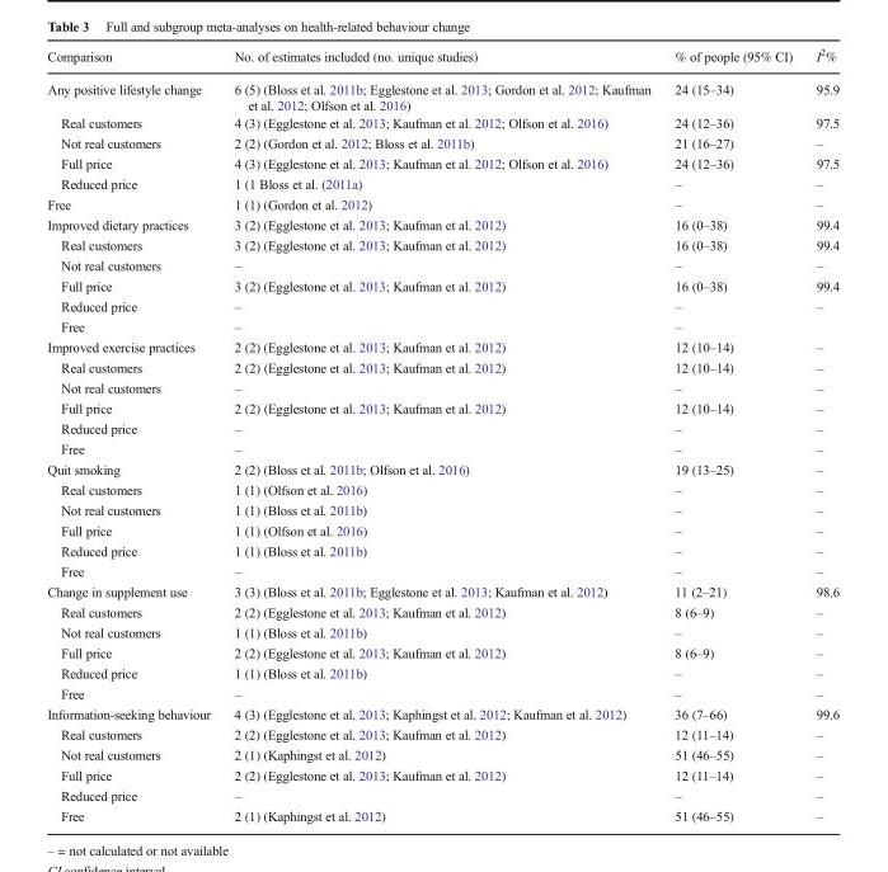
<table><thead><tr><td>Comparison</td><td>No. of estimates included (no. unique studies)</td><td>% of people (95% CI)</td><td>I<sup>2</sup>%</td></tr></thead><tbody><tr><td>Any positive lifestyle change</td><td>6 (5) (Bloss et al. 2011b; Egglestone et al. 2013; Gordon et al. 2012; Kaufman et al. 2012; Olfson et al. 2016)</td><td>24 (15–34)</td><td>95.9</td></tr><tr><td>Real customers</td><td>4 (3) (Egglestone et al. 2013; Kaufman et al. 2012; Olfson et al. 2016)</td><td>24 (12–36)</td><td>97.5</td></tr><tr><td>Not real customers</td><td>2 (2) (Gordon et al. 2012; Bloss et al. 2011b)</td><td>21 (16–27)</td><td>–</td></tr><tr><td>Full price</td><td>4 (3) (Egglestone et al. 2013; Kaufman et al. 2012; Olfson et al. 2016)</td><td>24 (12–36)</td><td>97.5</td></tr><tr><td>Reduced price</td><td>1 (1 Bloss et al. (2011a)</td><td>–</td><td>–</td></tr><tr><td>Free</td><td>1 (1) (Gordon et al. 2012)</td><td>–</td><td>–</td></tr><tr><td>Improved dietary practices</td><td>3 (2) (Egglestone et al. 2013; Kaufman et al. 2012)</td><td>16 (0–38)</td><td>99.4</td></tr><tr><td>Real customers</td><td>3 (2) (Egglestone et al. 2013; Kaufman et al. 2012)</td><td>16 (0–38)</td><td>99.4</td></tr><tr><td>Not real customers</td><td>–</td><td>–</td><td>–</td></tr><tr><td>Full price</td><td>3 (2) (Egglestone et al. 2013; Kaufman et al. 2012)</td><td>16 (0–38)</td><td>99.4</td></tr><tr><td>Reduced price</td><td>–</td><td>–</td><td>–</td></tr><tr><td>Free</td><td>–</td><td>–</td><td></td></tr><tr><td>Improved exercise practices</td><td>2 (2) (Egglestone et al. 2013; Kaufman et al. 2012)</td><td>12 (10–14)</td><td>–</td></tr><tr><td>Real customers</td><td>2 (2) (Egglestone et al. 2013; Kaufman et al. 2012)</td><td>12 (10–14)</td><td>–</td></tr><tr><td>Not real customers</td><td>–</td><td>–</td><td>–</td></tr><tr><td>Full price</td><td>2 (2) (Egglestone et al. 2013; Kaufman et al. 2012)</td><td>12 (10–14)</td><td>–</td></tr><tr><td>Reduced price</td><td>–</td><td>–</td><td>–</td></tr><tr><td>Free</td><td>–</td><td>–</td><td>–</td></tr><tr><td>Quit smoking</td><td>2 (2) (Bloss et al. 2011b; Olfson et al. 2016)</td><td>19 (13–25)</td><td>–</td></tr><tr><td>Real customers</td><td>1 (1) (Olfson et al. 2016)</td><td>–</td><td>–</td></tr><tr><td>Not real customers</td><td>1 (1) (Bloss et al. 2011b)</td><td>–</td><td>–</td></tr><tr><td>Full price</td><td>1 (1) (Olfson et al. 2016)</td><td>–</td><td>–</td></tr><tr><td>Reduced price</td><td>1 (1) (Bloss et al. 2011b)</td><td>–</td><td>–</td></tr><tr><td>Free</td><td>–</td><td>–</td><td>–</td></tr><tr><td>Change in supplement use</td><td>3 (3) (Bloss et al. 2011b; Egglestone et al. 2013; Kaufman et al. 2012)</td><td>11 (2–21)</td><td>98.6</td></tr><tr><td>Real customers</td><td>2 (2) (Egglestone et al. 2013; Kaufman et al. 2012)</td><td>8 (6–9)</td><td>–</td></tr><tr><td>Not real customers</td><td>1 (1) (Bloss et al. 2011b)</td><td>–</td><td>–</td></tr><tr><td>Full price</td><td>2 (2) (Egglestone et al. 2013; Kaufman et al. 2012)</td><td>8 (6–9)</td><td>–</td></tr><tr><td>Reduced price</td><td>1 (1) (Bloss et al. 2011b)</td><td>–</td><td>–</td></tr><tr><td>Free</td><td>–</td><td>–</td><td>–</td></tr><tr><td>Information-seeking behaviour</td><td>4 (3) (Egglestone et al. 2013; Kaphingst et al. 2012; Kaufman et al. 2012)</td><td>36 (7–66)</td><td>99.6</td></tr><tr><td>Real customers</td><td>2 (2) (Egglestone et al. 2013; Kaufman et al. 2012)</td><td>12 (11–14)</td><td>–</td></tr><tr><td>Not real customers</td><td>2 (1) (Kaphingst et al. 2012)</td><td>51 (46–55)</td><td>–</td></tr><tr><td>Full price</td><td>2 (2) (Egglestone et al. 2013; Kaufman et al. 2012)</td><td>12 (11–14)</td><td>–</td></tr><tr><td>Reduced price</td><td>–</td><td>–</td><td>–</td></tr><tr><td>Free</td><td>2 (1) (Kaphingst et al. 2012)</td><td>51 (46–55)</td><td>–</td></tr></tbody></table>